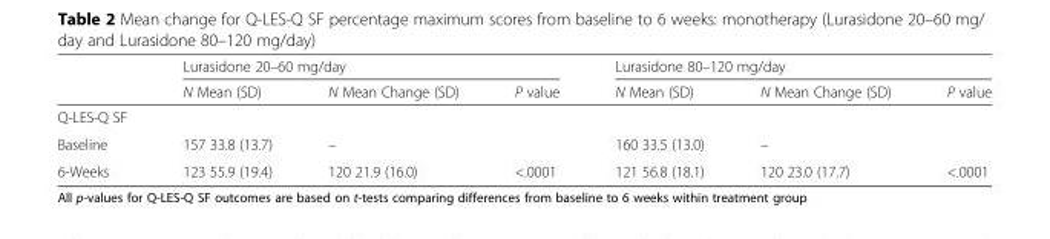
<table><thead><tr><td rowspan="2"></td><td colspan="3">Lurasidone 20–60 mg/day</td><td colspan="3">Lurasidone 80–120 mg/day</td></tr><tr><td>N Mean (SD)</td><td>N Mean Change (SD)</td><td>P value</td><td>N Mean (SD)</td><td>N Mean Change (SD)</td><td>P value</td></tr></thead><tbody><tr><td colspan="7">Q-LES-Q SF</td></tr><tr><td>Baseline</td><td>157 33.8 (13.7)</td><td>–</td><td></td><td>160 33.5 (13.0)</td><td>–</td><td></td></tr><tr><td>6-Weeks</td><td>123 55.9 (19.4)</td><td>120 21.9 (16.0)</td><td>&lt;.0001</td><td>121 56.8 (18.1)</td><td>120 23.0 (17.7)</td><td>&lt;.0001</td></tr></tbody></table>